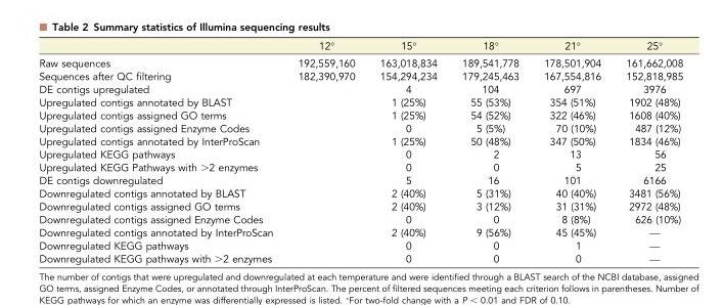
<table><thead><tr><td></td><td>12°</td><td>15°</td><td>18°</td><td>21°</td><td>25°</td></tr></thead><tbody><tr><td>Raw sequences</td><td>192,559,160</td><td>163,018,834</td><td>189,541,778</td><td>178,501,904</td><td>161,662,008</td></tr><tr><td>Sequences after QC filtering</td><td>182,390,970</td><td>154,294,234</td><td>179,245,463</td><td>167,554,816</td><td>152,818,985</td></tr><tr><td>DE contigs upregulated</td><td></td><td>4</td><td>104</td><td>697</td><td>3976</td></tr><tr><td>Upregulated contigs annotated by BLAST</td><td></td><td>1 (25%)</td><td>55 (53%)</td><td>354 (51%)</td><td>1902 (48%)</td></tr><tr><td>Upregulated contigs assigned GO terms</td><td></td><td>1 (25%)</td><td>54 (52%)</td><td>322 (46%)</td><td>1608 (40%)</td></tr><tr><td>Upregulated contigs assigned Enzyme Codes</td><td></td><td>0</td><td>5 (5%)</td><td>70 (10%)</td><td>487 (12%)</td></tr><tr><td>Upregulated contigs annotated by InterProScan</td><td></td><td>1 (25%)</td><td>50 (48%)</td><td>347 (50%)</td><td>1834 (46%)</td></tr><tr><td>Upregulated KEGG pathways</td><td></td><td>0</td><td>2</td><td>13</td><td>56</td></tr><tr><td>Upregulated KEGG Pathways with &gt;2 enzymes</td><td></td><td>0</td><td>0</td><td>5</td><td>25</td></tr><tr><td>DE contigs downregulated</td><td></td><td>5</td><td>16</td><td>101</td><td>6166</td></tr><tr><td>Downregulated contigs annotated by BLAST</td><td></td><td>2 (40%)</td><td>5 (31%)</td><td>40 (40%)</td><td>3481 (56%)</td></tr><tr><td>Downregulated contigs assigned GO terms</td><td></td><td>2 (40%)</td><td>3 (12%)</td><td>31 (31%)</td><td>2972 (48%)</td></tr><tr><td>Downregulated contigs assigned Enzyme Codes</td><td></td><td>0</td><td>0</td><td>8 (8%)</td><td>626 (10%)</td></tr><tr><td>Downregulated contigs annotated by InterProScan</td><td></td><td>2 (40%)</td><td>9 (56%)</td><td>45 (45%)</td><td>—</td></tr><tr><td>Downregulated KEGG pathways</td><td></td><td>0</td><td>0</td><td>1</td><td>—</td></tr><tr><td>Downregulated KEGG pathways with &gt;2 enzymes</td><td></td><td>0</td><td>0</td><td>0</td><td>—</td></tr></tbody></table>